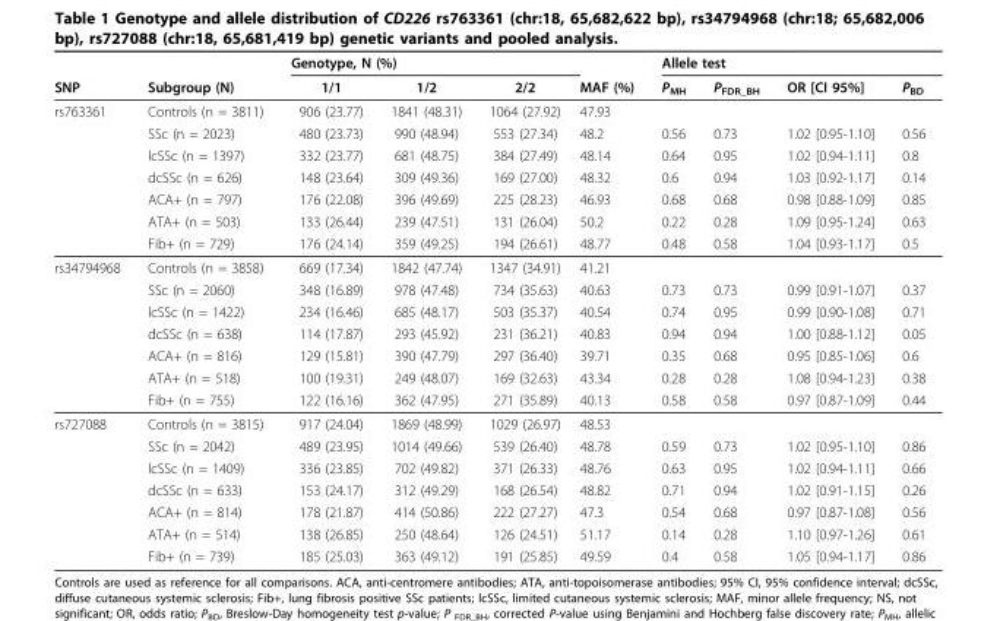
<table><thead><tr><td rowspan="2">SNP</td><td rowspan="2">Subgroup (N)</td><td colspan="3">Genotype, N (%)</td><td rowspan="2">MAF (%)</td><td colspan="4">Allele test</td></tr><tr><td>1/1</td><td>1/2</td><td>2/2</td><td>P<sub>MH</sub></td><td>P<sub>FDR_BH</sub></td><td>OR [CI 95%]</td><td>P<sub>BD</sub></td></tr></thead><tbody><tr><td rowspan="7">rs763361</td><td>Controls (n = 3811)</td><td>906 (23.77)</td><td>1841 (48.31)</td><td>1064 (27.92)</td><td>47.93</td><td></td><td></td><td></td><td></td></tr><tr><td>SSc (n = 2023)</td><td>480 (23.73)</td><td>990 (48.94)</td><td>553 (27.34)</td><td>48.2</td><td>0.56</td><td>0.73</td><td>1.02 [0.95-1.10]</td><td>0.56</td></tr><tr><td>lcSSc (n = 1397)</td><td>332 (23.77)</td><td>681 (48.75)</td><td>384 (27.49)</td><td>48.14</td><td>0.64</td><td>0.95</td><td>1.02 [0.94-1.11]</td><td>0.8</td></tr><tr><td>dcSSc (n = 626)</td><td>148 (23.64)</td><td>309 (49.36)</td><td>169 (27.00)</td><td>48.32</td><td>0.6</td><td>0.94</td><td>1.03 [0.92-1.17]</td><td>0.14</td></tr><tr><td>ACA+ (n = 797)</td><td>176 (22.08)</td><td>396 (49.69)</td><td>225 (28.23)</td><td>46.93</td><td>0.68</td><td>0.68</td><td>0.98 [0.88-1.09]</td><td>0.85</td></tr><tr><td>ATA+ (n = 503)</td><td>133 (26.44)</td><td>239 (47.51)</td><td>131 (26.04)</td><td>50.2</td><td>0.22</td><td>0.28</td><td>1.09 [0.95-1.24]</td><td>0.63</td></tr><tr><td>Fib+ (n = 729)</td><td>176 (24.14)</td><td>359 (49.25)</td><td>194 (26.61)</td><td>48.77</td><td>0.48</td><td>0.58</td><td>1.04 [0.93-1.17]</td><td>0.5</td></tr><tr><td rowspan="7">rs34794968</td><td>Controls (n = 3858)</td><td>669 (17.34)</td><td>1842 (47.74)</td><td>1347 (34.91)</td><td>41.21</td><td></td><td></td><td></td><td></td></tr><tr><td>SSc (n = 2060)</td><td>348 (16.89)</td><td>978 (47.48)</td><td>734 (35.63)</td><td>40.63</td><td>0.73</td><td>0.73</td><td>0.99 [0.91-1.07]</td><td>0.37</td></tr><tr><td>lcSSc (n = 1422)</td><td>234 (16.46)</td><td>685 (48.17)</td><td>503 (35.37)</td><td>40.54</td><td>0.74</td><td>0.95</td><td>0.99 [0.90-1.08]</td><td>0.71</td></tr><tr><td>dcSSc (n = 638)</td><td>114 (17.87)</td><td>293 (45.92)</td><td>231 (36.21)</td><td>40.83</td><td>0.94</td><td>0.94</td><td>1.00 [0.88-1.12]</td><td>0.05</td></tr><tr><td>ACA+ (n = 816)</td><td>129 (15.81)</td><td>390 (47.79)</td><td>297 (36.40)</td><td>39.71</td><td>0.35</td><td>0.68</td><td>0.95 [0.85-1.06]</td><td>0.6</td></tr><tr><td>ATA+ (n = 518)</td><td>100 (19.31)</td><td>249 (48.07)</td><td>169 (32.63)</td><td>43.34</td><td>0.28</td><td>0.28</td><td>1.08 [0.94-1.23]</td><td>0.38</td></tr><tr><td>Fib+ (n = 755)</td><td>122 (16.16)</td><td>362 (47.95)</td><td>271 (35.89)</td><td>40.13</td><td>0.58</td><td>0.58</td><td>0.97 [0.87-1.09]</td><td>0.44</td></tr><tr><td rowspan="7">rs727088</td><td>Controls (n = 3815)</td><td>917 (24.04)</td><td>1869 (48.99)</td><td>1029 (26.97)</td><td>48.53</td><td></td><td></td><td></td><td></td></tr><tr><td>SSc (n = 2042)</td><td>489 (23.95)</td><td>1014 (49.66)</td><td>539 (26.40)</td><td>48.78</td><td>0.59</td><td>0.73</td><td>1.02 [0.95-1.10]</td><td>0.86</td></tr><tr><td>lcSSc (n = 1409)</td><td>336 (23.85)</td><td>702 (49.82)</td><td>371 (26.33)</td><td>48.76</td><td>0.63</td><td>0.95</td><td>1.02 [0.94-1.11]</td><td>0.66</td></tr><tr><td>dcSSc (n = 633)</td><td>153 (24.17)</td><td>312 (49.29)</td><td>168 (26.54)</td><td>48.82</td><td>0.71</td><td>0.94</td><td>1.02 [0.91-1.15]</td><td>0.26</td></tr><tr><td>ACA+ (n = 814)</td><td>178 (21.87)</td><td>414 (50.86)</td><td>222 (27.27)</td><td>47.3</td><td>0.54</td><td>0.68</td><td>0.97 [0.87-1.08]</td><td>0.56</td></tr><tr><td>ATA+ (n = 514)</td><td>138 (26.85)</td><td>250 (48.64)</td><td>126 (24.51)</td><td>51.17</td><td>0.14</td><td>0.28</td><td>1.10 [0.97-1.26]</td><td>0.61</td></tr><tr><td>Fib+ (n = 739)</td><td>185 (25.03)</td><td>363 (49.12)</td><td>191 (25.85)</td><td>49.59</td><td>0.4</td><td>0.58</td><td>1.05 [0.94-1.17]</td><td>0.86</td></tr></tbody></table>